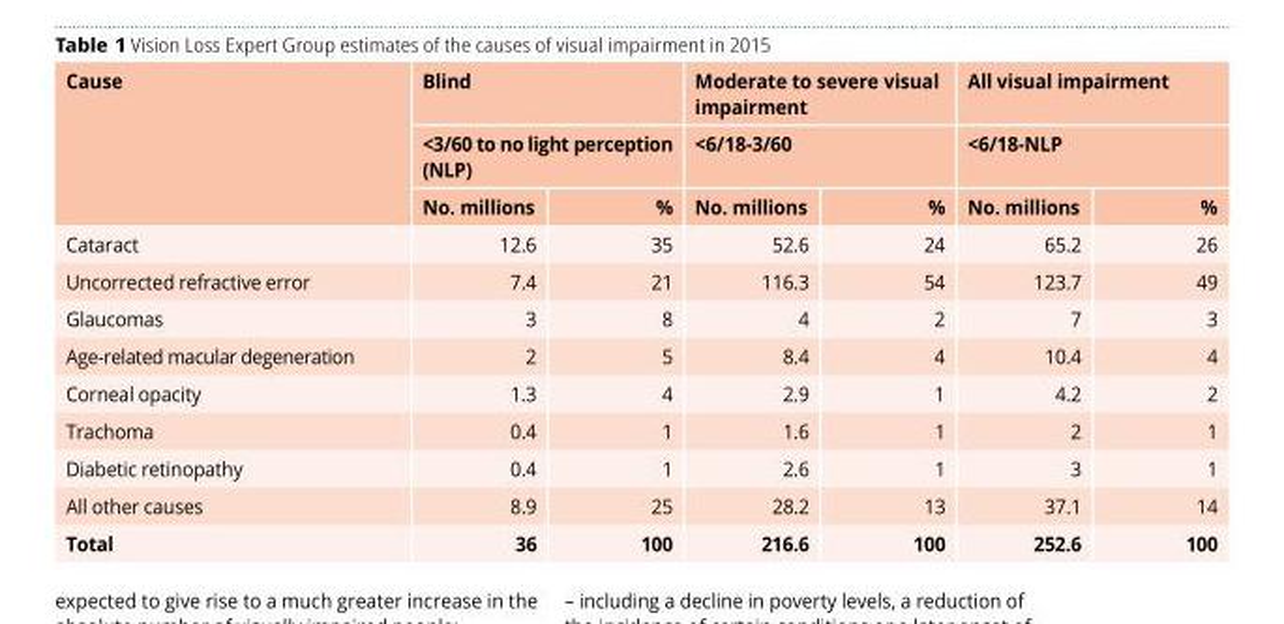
<table><thead><tr><td rowspan="3">Cause</td><td rowspan="2" colspan="2">Blind &lt;3/60 to no light perception (NLP)</td><td rowspan="2" colspan="2">Moderate to severe visual impairment &lt;6/18-3/60</td><td rowspan="2" colspan="2">All visual impairment &lt;6/18-NLP</td></tr><tr></tr><tr><td>No. millions</td><td>%</td><td>No. millions</td><td>%</td><td>No. millions</td><td>%</td></tr></thead><tbody><tr><td>Cataract</td><td>12.6</td><td>35</td><td>52.6</td><td>24</td><td>65.2</td><td>26</td></tr><tr><td>Uncorrected refractive error</td><td>7.4</td><td>21</td><td>116.3</td><td>54</td><td>123.7</td><td>49</td></tr><tr><td>Glaucomas</td><td>3</td><td>8</td><td>4</td><td>2</td><td>7</td><td>3</td></tr><tr><td>Age-related macular degeneration</td><td>2</td><td>5</td><td>8.4</td><td>4</td><td>10.4</td><td>4</td></tr><tr><td>Corneal opacity</td><td>1.3</td><td>4</td><td>2.9</td><td>1</td><td>4.2</td><td>2</td></tr><tr><td>Trachoma</td><td>0.4</td><td>1</td><td>1.6</td><td>1</td><td>2</td><td>1</td></tr><tr><td>Diabetic retinopathy</td><td>0.4</td><td>1</td><td>2.6</td><td>1</td><td>3</td><td>1</td></tr><tr><td>All other causes</td><td>8.9</td><td>25</td><td>28.2</td><td>13</td><td>37.1</td><td>14</td></tr><tr><td>Total</td><td>36</td><td>100</td><td>216.6</td><td>100</td><td>252.6</td><td>100</td></tr></tbody></table>